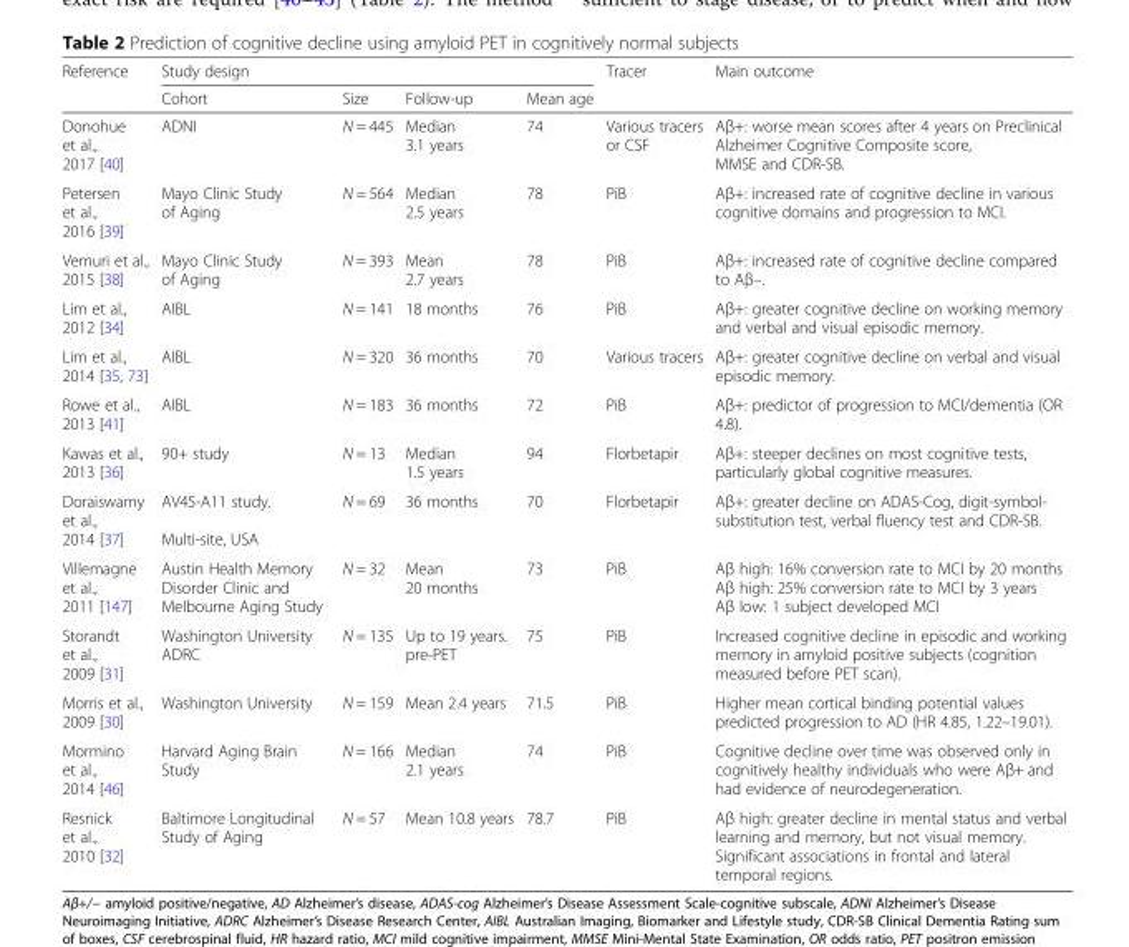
<table><thead><tr><td rowspan="2">Reference</td><td colspan="4">Study design</td><td rowspan="2">Tracer</td><td rowspan="2">Main outcome</td></tr><tr><td>Cohort</td><td>Size</td><td>Follow-up</td><td>Mean age</td></tr></thead><tbody><tr><td>Donohue et al., 2017 [40]</td><td>ADNI</td><td>N = 445</td><td>Median 3.1 years</td><td>74</td><td>Various tracers or CSF</td><td>Aβ+: worse mean scores after 4 years on Preclinical Alzheimer Cognitive Composite score, MMSE and CDR-SB.</td></tr><tr><td>Petersen et al., 2016 [39]</td><td>Mayo Clinic Study of Aging</td><td>N = 564</td><td>Median 2.5 years</td><td>78</td><td>PiB</td><td>Aβ+: increased rate of cognitive decline in various cognitive domains and progression to MCI.</td></tr><tr><td>Vemuri et al., 2015 [38]</td><td>Mayo Clinic Study of Aging</td><td>N = 393</td><td>Mean 2.7 years</td><td>78</td><td>PiB</td><td>Aβ+: increased rate of cognitive decline compared to Aβ–.</td></tr><tr><td>Lim et al., 2012 [34]</td><td>AIBL</td><td>N = 141</td><td>18 months</td><td>76</td><td>PiB</td><td>Aβ+: greater cognitive decline on working memory and verbal and visual episodic memory.</td></tr><tr><td>Lim et al., 2014 [35, 73]</td><td>AIBL</td><td>N = 320</td><td>36 months</td><td>70</td><td>Various tracers</td><td>Aβ+: greater cognitive decline on verbal and visual episodic memory.</td></tr><tr><td>Rowe et al., 2013 [41]</td><td>AIBL</td><td>N = 183</td><td>36 months</td><td>72</td><td>PiB</td><td>Aβ+: predictor of progression to MCI/dementia (OR 4.8).</td></tr><tr><td>Kawas et al., 2013 [36]</td><td>90+ study</td><td>N = 13</td><td>Median 1.5 years</td><td>94</td><td>Florbetapir</td><td>Aβ+: steeper declines on most cognitive tests, particularly global cognitive measures.</td></tr><tr><td>Doraiswamy et al., 2014 [37]</td><td>AV45-A11 study. Multi-site, USA</td><td>N = 69</td><td>36 months</td><td>70</td><td>Florbetapir</td><td>Aβ+: greater decline on ADAS-Cog, digit-symbol- substitution test, verbal fluency test and CDR-SB.</td></tr><tr><td>Villemagne et al., 2011 [147]</td><td>Austin Health Memory Disorder Clinic and Melbourne Aging Study</td><td>N = 32</td><td>Mean 20 months</td><td>73</td><td>PiB</td><td>Aβ high: 16% conversion rate to MCI by 20 months Aβ high: 25% conversion rate to MCI by 3 years Aβ low: 1 subject developed MCI</td></tr><tr><td>Storandt et al., 2009 [31]</td><td>Washington University ADRC</td><td>N = 135</td><td>Up to 19 years. pre-PET</td><td>75</td><td>PiB</td><td>Increased cognitive decline in episodic and working memory in amyloid positive subjects (cognition measured before PET scan).</td></tr><tr><td>Morris et al., 2009 [30]</td><td>Washington University</td><td>N = 159</td><td>Mean 2.4 years</td><td>71.5</td><td>PiB</td><td>Higher mean cortical binding potential values predicted progression to AD (HR 4.85, 1.22–19.01).</td></tr><tr><td>Mormino et al., 2014 [46]</td><td>Harvard Aging Brain Study</td><td>N = 166</td><td>Median 2.1 years</td><td>74</td><td>PiB</td><td>Cognitive decline over time was observed only in cognitively healthy individuals who were Aβ+ and had evidence of neurodegeneration.</td></tr><tr><td>Resnick et al., 2010 [32]</td><td>Baltimore Longitudinal Study of Aging</td><td>N = 57</td><td>Mean 10.8 years</td><td>78.7</td><td>PiB</td><td>Aβ high: greater decline in mental status and verbal learning and memory, but not visual memory. Significant associations in frontal and lateral temporal regions.</td></tr></tbody></table>